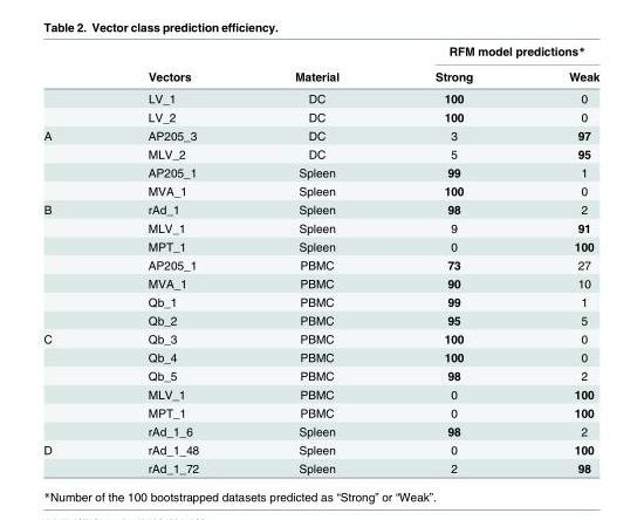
<table><thead><tr><td rowspan="2"></td><td rowspan="2">Vectors</td><td rowspan="2">Material</td><td colspan="2">RFM model predictions*</td></tr><tr><td>Strong</td><td>Weak</td></tr></thead><tbody><tr><td></td><td>LV_1</td><td>DC</td><td>100</td><td>0</td></tr><tr><td></td><td>LV_2</td><td>DC</td><td>100</td><td>0</td></tr><tr><td rowspan="4">A</td><td>AP205_3</td><td>DC</td><td>3</td><td>97</td></tr><tr><td>MLV_2</td><td>DC</td><td>5</td><td>95</td></tr><tr><td>AP205_1</td><td>Spleen</td><td>99</td><td>1</td></tr><tr><td>MVA_1</td><td>Spleen</td><td>100</td><td>0</td></tr><tr><td rowspan="7">B</td><td>rAd_1</td><td>Spleen</td><td>98</td><td>2</td></tr><tr><td>MLV_1</td><td>Spleen</td><td>9</td><td>91</td></tr><tr><td>MPT_1</td><td>Spleen</td><td>0</td><td>100</td></tr><tr><td>AP205_1</td><td>PBMC</td><td>73</td><td>27</td></tr><tr><td>MVA_1</td><td>PBMC</td><td>90</td><td>10</td></tr><tr><td>Qb_1</td><td>PBMC</td><td>99</td><td>1</td></tr><tr><td>Qb_2</td><td>PBMC</td><td>95</td><td>5</td></tr><tr><td rowspan="6">C</td><td>Qb_3</td><td>PBMC</td><td>100</td><td>0</td></tr><tr><td>Qb_4</td><td>PBMC</td><td>100</td><td>0</td></tr><tr><td>Qb_5</td><td>PBMC</td><td>98</td><td>2</td></tr><tr><td>MLV_1</td><td>PBMC</td><td>0</td><td>100</td></tr><tr><td>MPT_1</td><td>PBMC</td><td>0</td><td>100</td></tr><tr><td>rAd_1_6</td><td>Spleen</td><td>98</td><td>2</td></tr><tr><td rowspan="2">D</td><td>rAd_1_48</td><td>Spleen</td><td>0</td><td>100</td></tr><tr><td>rAd_1_72</td><td>Spleen</td><td>2</td><td>98</td></tr></tbody></table>